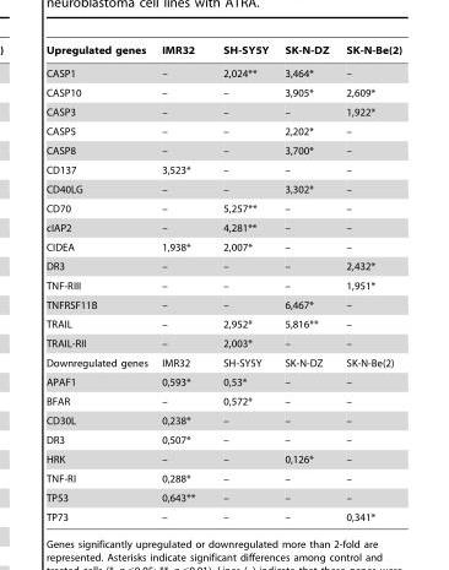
<table><thead><tr><td>Upregulated genes</td><td>IMR32</td><td>SH-SY5Y</td><td>SK-N-DZ</td><td>SK-N-Be(2)</td></tr></thead><tbody><tr><td>CASP1</td><td>–</td><td>2,024**</td><td>3,464*</td><td>–</td></tr><tr><td>CASP10</td><td>–</td><td>–</td><td>3,905*</td><td>2,609*</td></tr><tr><td>CASP3</td><td>–</td><td>–</td><td>–</td><td>1,922*</td></tr><tr><td>CASP5</td><td>–</td><td>–</td><td>2,202*</td><td>–</td></tr><tr><td>CASP8</td><td>–</td><td>–</td><td>3,700*</td><td>–</td></tr><tr><td>CD137</td><td>3,523*</td><td>–</td><td>–</td><td>–</td></tr><tr><td>CD40LG</td><td>–</td><td>–</td><td>3,302*</td><td>–</td></tr><tr><td>CD70</td><td>–</td><td>5,257**</td><td>–</td><td>–</td></tr><tr><td>cIAP2</td><td>–</td><td>4,281**</td><td>–</td><td>–</td></tr><tr><td>CIDEA</td><td>1,938*</td><td>2,007*</td><td>–</td><td>–</td></tr><tr><td>DR3</td><td>–</td><td>–</td><td>–</td><td>2,432*</td></tr><tr><td>TNF-RIII</td><td>–</td><td>–</td><td>–</td><td>1,951*</td></tr><tr><td>TNFRSF11B</td><td>–</td><td>–</td><td>6,467*</td><td>–</td></tr><tr><td>TRAIL</td><td>–</td><td>2,952*</td><td>5,816**</td><td>–</td></tr><tr><td>TRAIL-RII</td><td>–</td><td>2,003*</td><td>–</td><td>–</td></tr><tr><td>Downregulated genes</td><td>IMR32</td><td>SH-SY5Y</td><td>SK-N-DZ</td><td>SK-N-Be(2)</td></tr><tr><td>APAF1</td><td>0,593*</td><td>0,53*</td><td>–</td><td>–</td></tr><tr><td>BFAR</td><td>–</td><td>0,572*</td><td>–</td><td>–</td></tr><tr><td>CD30L</td><td>0,238*</td><td>–</td><td>–</td><td>–</td></tr><tr><td>DR3</td><td>0,507*</td><td>–</td><td>–</td><td>–</td></tr><tr><td>HRK</td><td>–</td><td>–</td><td>0,126*</td><td>–</td></tr><tr><td>TNF-RI</td><td>0,288*</td><td>–</td><td>–</td><td>–</td></tr><tr><td>TP53</td><td>0,643**</td><td>–</td><td>–</td><td>–</td></tr><tr><td>TP73</td><td>–</td><td>–</td><td>–</td><td>0,341*</td></tr></tbody></table>